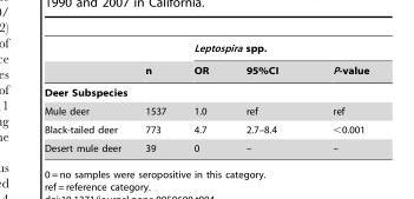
<table><thead><tr><td rowspan="2"></td><td rowspan="2">n</td><td colspan="3">Leptospira spp.</td></tr><tr><td>OR</td><td>95%CI</td><td>P-value</td></tr></thead><tbody><tr><td colspan="5">Deer Subspecies</td></tr><tr><td>Mule deer</td><td>1537</td><td>1.0</td><td>ref</td><td>ref</td></tr><tr><td>Black-tailed deer</td><td>773</td><td>4.7</td><td>2.7–8.4</td><td>&lt;0.001</td></tr><tr><td>Desert mule deer</td><td>39</td><td>0</td><td>–</td><td>–</td></tr></tbody></table>